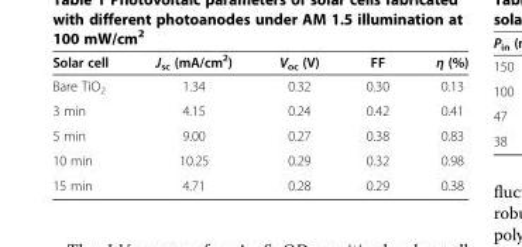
<table><thead><tr><td>Solar cell</td><td>J<sub>sc</sub> (mA/cm<sup>2</sup>)</td><td>V<sub>oc</sub> (V)</td><td>FF</td><td>η (%)</td></tr></thead><tbody><tr><td>Bare TiO<sub>2</sub></td><td>1.34</td><td>0.32</td><td>0.30</td><td>0.13</td></tr><tr><td>3 min</td><td>4.15</td><td>0.24</td><td>0.42</td><td>0.41</td></tr><tr><td>5 min</td><td>9.00</td><td>0.27</td><td>0.38</td><td>0.83</td></tr><tr><td>10 min</td><td>10.25</td><td>0.29</td><td>0.32</td><td>0.98</td></tr><tr><td>15 min</td><td>4.71</td><td>0.28</td><td>0.29</td><td>0.38</td></tr></tbody></table>